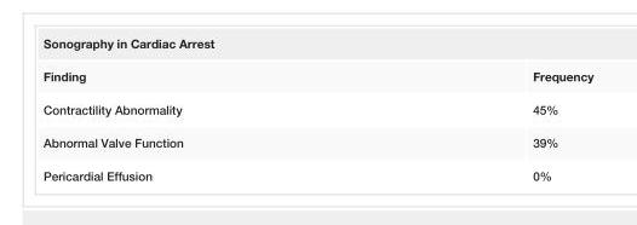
<table><tbody><tr><td colspan="2">Sonography in Cardiac Arrest</td></tr><tr><td>Finding</td><td>Frequency</td></tr><tr><td>Contractility Abnormality</td><td>45%</td></tr><tr><td>Abnormal Valve Function</td><td>39%</td></tr><tr><td>Pericardial Effusion</td><td>0%</td></tr></tbody></table>